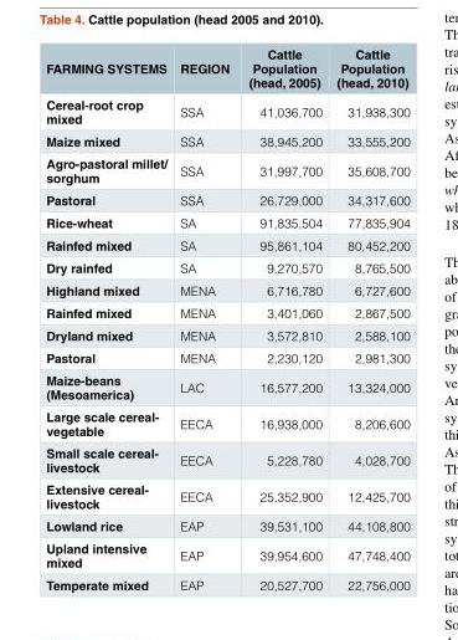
<table><thead><tr><td>FARMING SYSTEMS</td><td>REGION</td><td>Cattle Population (head, 2005)</td><td>Cattle Population (head, 2010)</td></tr></thead><tbody><tr><td>Cereal-root crop mixed</td><td>SSA</td><td>41,036,700</td><td>31,938,300</td></tr><tr><td>Maize mixed</td><td>SSA</td><td>38,945,200</td><td>33,555,200</td></tr><tr><td>Agro-pastoral millet/ sorghum</td><td>SSA</td><td>31,997,700</td><td>35,608,700</td></tr><tr><td>Pastoral</td><td>SSA</td><td>26,729,000</td><td>34,317,600</td></tr><tr><td>Rice-wheat</td><td>SA</td><td>91,835,504</td><td>77,835,904</td></tr><tr><td>Rainfed mixed</td><td>SA</td><td>95,861,104</td><td>80,452,200</td></tr><tr><td>Dry rainfed</td><td>SA</td><td>9,270,570</td><td>8,765,500</td></tr><tr><td>Highland mixed</td><td>MENA</td><td>6,716,780</td><td>6,727,600</td></tr><tr><td>Rainfed mixed</td><td>MENA</td><td>3,401,060</td><td>2,867,500</td></tr><tr><td>Dryland mixed</td><td>MENA</td><td>3,572,810</td><td>2,588,100</td></tr><tr><td>Pastoral</td><td>MENA</td><td>2,230,120</td><td>2,981,300</td></tr><tr><td>Maize-beans (Mesoamerica)</td><td>LAC</td><td>16,577,200</td><td>13,324,000</td></tr><tr><td>Large scale cereal- vegetable</td><td>EECA</td><td>16,938,000</td><td>8,206,600</td></tr><tr><td>Small scale cereal- livestock</td><td>EECA</td><td>5,228,780</td><td>4,028,700</td></tr><tr><td>Extensive cereal- livestock</td><td>EECA</td><td>25,352,900</td><td>12,425,700</td></tr><tr><td>Lowland rice</td><td>EAP</td><td>39,531,100</td><td>44,108,800</td></tr><tr><td>Upland intensive mixed</td><td>EAP</td><td>39,954,600</td><td>47,748,400</td></tr><tr><td>Temperate mixed</td><td>EAP</td><td>20,527,700</td><td>22,756,000</td></tr></tbody></table>